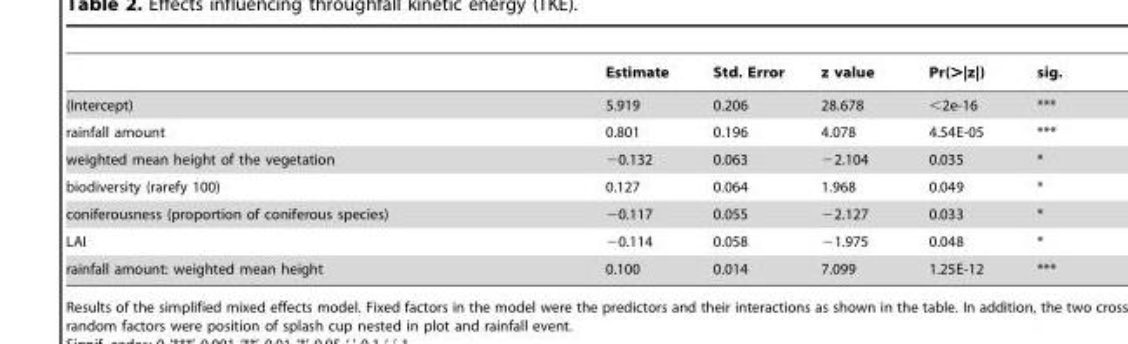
<table><thead><tr><td></td><td>Estimate</td><td>Std. Error</td><td>z value</td><td>Pr(&gt;|z|)</td><td>sig.</td></tr></thead><tbody><tr><td>(Intercept)</td><td>5.919</td><td>0.206</td><td>28.678</td><td>&lt;2e-16</td><td>***</td></tr><tr><td>rainfall amount</td><td>0.801</td><td>0.196</td><td>4.078</td><td>4.54E-05</td><td>***</td></tr><tr><td>weighted mean height of the vegetation</td><td>−0.132</td><td>0.063</td><td>−2.104</td><td>0.035</td><td>*</td></tr><tr><td>biodiversity (rarefy 100)</td><td>0.127</td><td>0.064</td><td>1.968</td><td>0.049</td><td>*</td></tr><tr><td>coniferousness (proportion of coniferous species)</td><td>−0.117</td><td>0.055</td><td>−2.127</td><td>0.033</td><td>*</td></tr><tr><td>LAI</td><td>−0.114</td><td>0.058</td><td>−1.975</td><td>0.048</td><td>*</td></tr><tr><td>rainfall amount: weighted mean height</td><td>0.100</td><td>0.014</td><td>7.099</td><td>1.25E-12</td><td>***</td></tr></tbody></table>